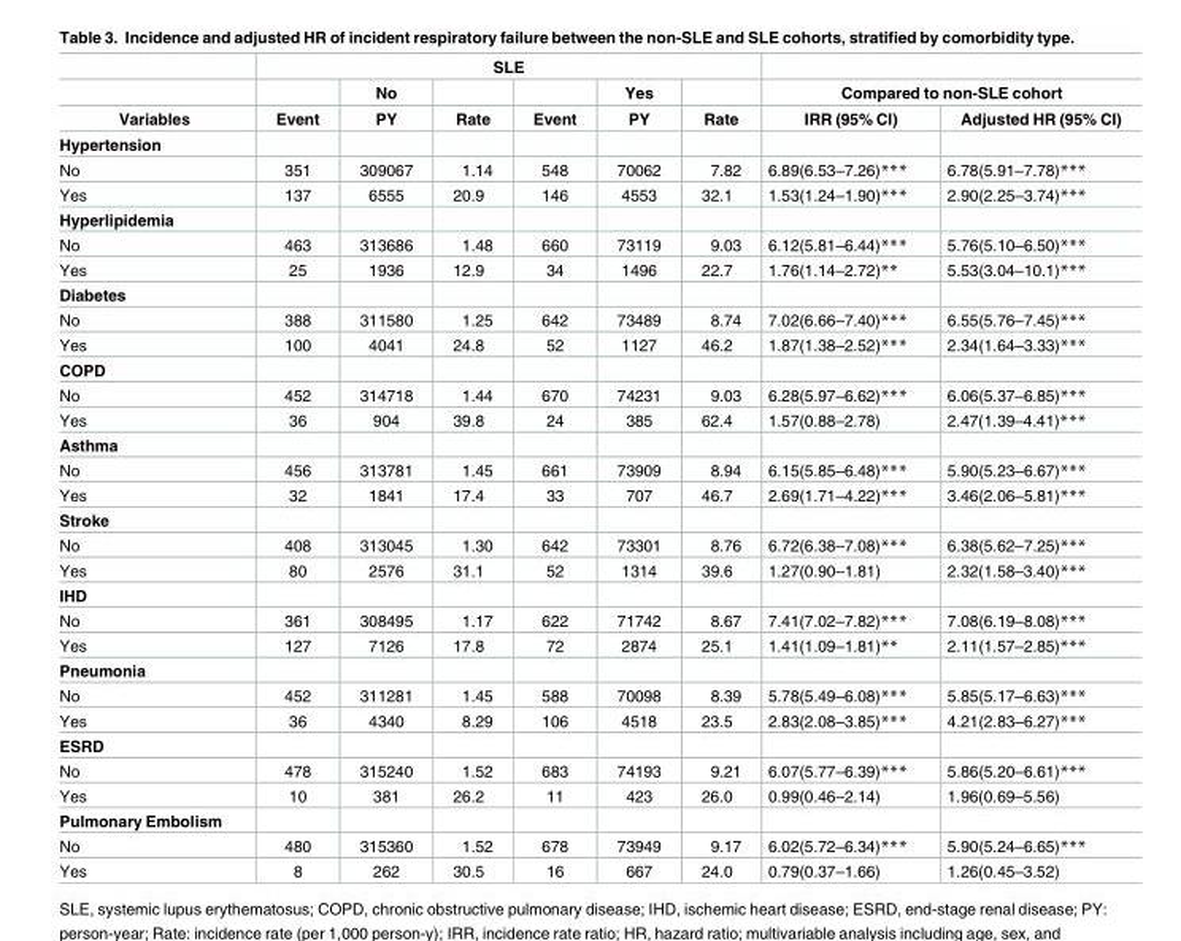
<table><thead><tr><td rowspan="3">Variables</td><td colspan="6">SLE</td><td></td><td></td></tr><tr><td rowspan="2">Event</td><td rowspan="2">No PY</td><td rowspan="2">Rate</td><td rowspan="2">Event</td><td rowspan="2">Yes PY</td><td rowspan="2">Rate</td><td colspan="2">Compared to non-SLE cohort</td></tr><tr><td>IRR (95% CI)</td><td>Adjusted HR (95% CI)</td></tr></thead><tbody><tr><td colspan="9">Hypertension</td></tr><tr><td>No</td><td>351</td><td>309067</td><td>1.14</td><td>548</td><td>70062</td><td>7.82</td><td>6.89(6.53–7.26)***</td><td>6.78(5.91–7.78)***</td></tr><tr><td>Yes</td><td>137</td><td>6555</td><td>20.9</td><td>146</td><td>4553</td><td>32.1</td><td>1.53(1.24–1.90)***</td><td>2.90(2.25–3.74)***</td></tr><tr><td colspan="9">Hyperlipidemia</td></tr><tr><td>No</td><td>463</td><td>313686</td><td>1.48</td><td>660</td><td>73119</td><td>9.03</td><td>6.12(5.81–6.44)***</td><td>5.76(5.10–6.50)***</td></tr><tr><td>Yes</td><td>25</td><td>1936</td><td>12.9</td><td>34</td><td>1496</td><td>22.7</td><td>1.76(1.14–2.72)**</td><td>5.53(3.04–10.1)***</td></tr><tr><td colspan="9">Diabetes</td></tr><tr><td>No</td><td>388</td><td>311580</td><td>1.25</td><td>642</td><td>73489</td><td>8.74</td><td>7.02(6.66–7.40)***</td><td>6.55(5.76–7.45)***</td></tr><tr><td>Yes</td><td>100</td><td>4041</td><td>24.8</td><td>52</td><td>1127</td><td>46.2</td><td>1.87(1.38–2.52)***</td><td>2.34(1.64–3.33)***</td></tr><tr><td colspan="9">COPD</td></tr><tr><td>No</td><td>452</td><td>314718</td><td>1.44</td><td>670</td><td>74231</td><td>9.03</td><td>6.28(5.97–6.62)***</td><td>6.06(5.37–6.85)***</td></tr><tr><td>Yes</td><td>36</td><td>904</td><td>39.8</td><td>24</td><td>385</td><td>62.4</td><td>1.57(0.88–2.78)</td><td>2.47(1.39–4.41)***</td></tr><tr><td colspan="9">Asthma</td></tr><tr><td>No</td><td>456</td><td>313781</td><td>1.45</td><td>661</td><td>73909</td><td>8.94</td><td>6.15(5.85–6.48)***</td><td>5.90(5.23–6.67)***</td></tr><tr><td>Yes</td><td>32</td><td>1841</td><td>17.4</td><td>33</td><td>707</td><td>46.7</td><td>2.69(1.71–4.22)***</td><td>3.46(2.06–5.81)***</td></tr><tr><td colspan="9">Stroke</td></tr><tr><td>No</td><td>408</td><td>313045</td><td>1.30</td><td>642</td><td>73301</td><td>8.76</td><td>6.72(6.38–7.08)***</td><td>6.38(5.62–7.25)***</td></tr><tr><td>Yes</td><td>80</td><td>2576</td><td>31.1</td><td>52</td><td>1314</td><td>39.6</td><td>1.27(0.90–1.81)</td><td>2.32(1.58–3.40)***</td></tr><tr><td colspan="9">IHD</td></tr><tr><td>No</td><td>361</td><td>308495</td><td>1.17</td><td>622</td><td>71742</td><td>8.67</td><td>7.41(7.02–7.82)***</td><td>7.08(6.19–8.08)***</td></tr><tr><td>Yes</td><td>127</td><td>7126</td><td>17.8</td><td>72</td><td>2874</td><td>25.1</td><td>1.41(1.09–1.81)**</td><td>2.11(1.57–2.85)***</td></tr><tr><td colspan="9">Pneumonia</td></tr><tr><td>No</td><td>452</td><td>311281</td><td>1.45</td><td>588</td><td>70098</td><td>8.39</td><td>5.78(5.49–6.08)***</td><td>5.85(5.17–6.63)***</td></tr><tr><td>Yes</td><td>36</td><td>4340</td><td>8.29</td><td>106</td><td>4518</td><td>23.5</td><td>2.83(2.08–3.85)***</td><td>4.21(2.83–6.27)***</td></tr><tr><td colspan="9">ESRD</td></tr><tr><td>No</td><td>478</td><td>315240</td><td>1.52</td><td>683</td><td>74193</td><td>9.21</td><td>6.07(5.77–6.39)***</td><td>5.86(5.20–6.61)***</td></tr><tr><td>Yes</td><td>10</td><td>381</td><td>26.2</td><td>11</td><td>423</td><td>26.0</td><td>0.99(0.46–2.14)</td><td>1.96(0.69–5.56)</td></tr><tr><td colspan="9">Pulmonary Embolism</td></tr><tr><td>No</td><td>480</td><td>315360</td><td>1.52</td><td>678</td><td>73949</td><td>9.17</td><td>6.02(5.72–6.34)***</td><td>5.90(5.24–6.65)***</td></tr><tr><td>Yes</td><td>8</td><td>262</td><td>30.5</td><td>16</td><td>667</td><td>24.0</td><td>0.79(0.37–1.66)</td><td>1.26(0.45–3.52)</td></tr></tbody></table>